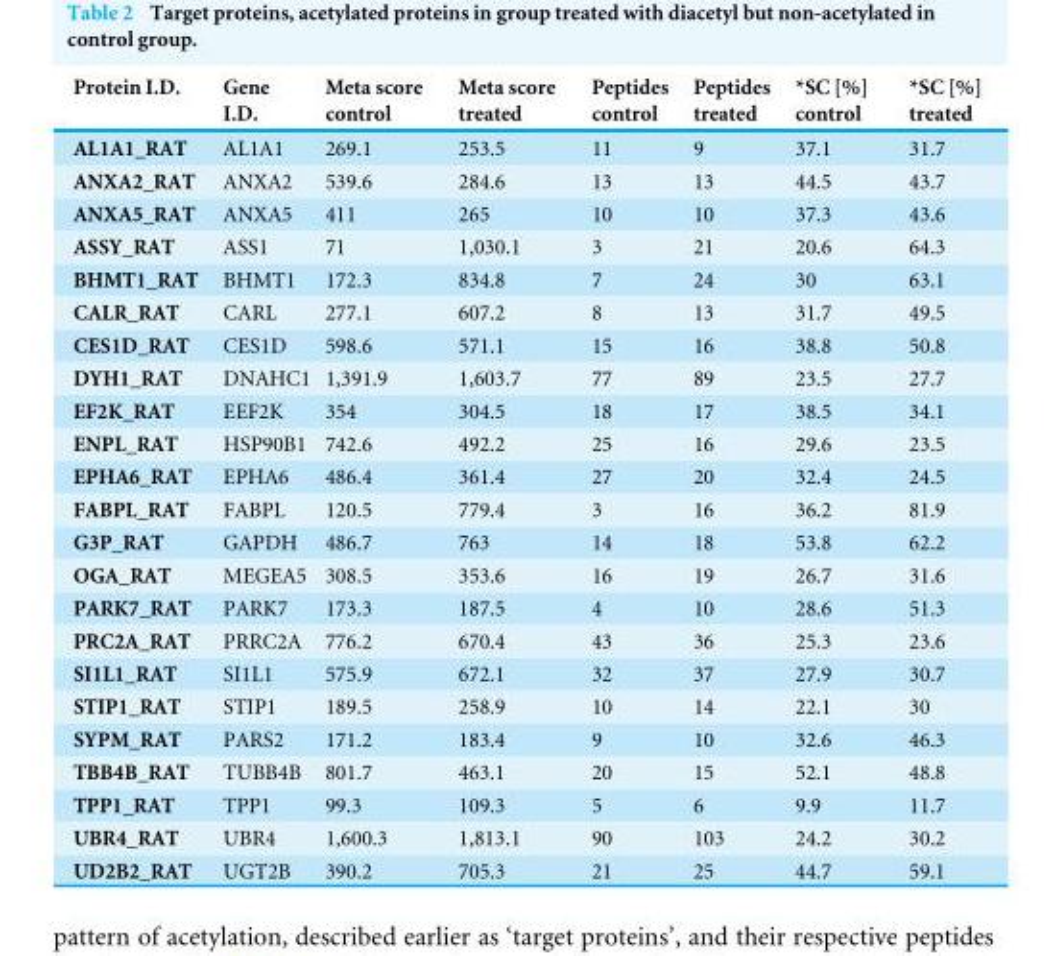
<table><thead><tr><td>Protein I.D.</td><td>Gene I.D.</td><td>Meta score control</td><td>Meta score treated</td><td>Peptides control</td><td>Peptides treated</td><td>*SC [%] control</td><td>*SC [%] treated</td></tr></thead><tbody><tr><td>AL1A1_RAT</td><td>AL1A1</td><td>269.1</td><td>253.5</td><td>11</td><td>9</td><td>37.1</td><td>31.7</td></tr><tr><td>ANXA2_RAT</td><td>ANXA2</td><td>539.6</td><td>284.6</td><td>13</td><td>13</td><td>44.5</td><td>43.7</td></tr><tr><td>ANXA5_RAT</td><td>ANXA5</td><td>411</td><td>265</td><td>10</td><td>10</td><td>37.3</td><td>43.6</td></tr><tr><td>ASSY_RAT</td><td>ASS1</td><td>71</td><td>1,030.1</td><td>3</td><td>21</td><td>20.6</td><td>64.3</td></tr><tr><td>BHMT1_RAT</td><td>BHMT1</td><td>172.3</td><td>834.8</td><td>7</td><td>24</td><td>30</td><td>63.1</td></tr><tr><td>CALR_RAT</td><td>CARL</td><td>277.1</td><td>607.2</td><td>8</td><td>13</td><td>31.7</td><td>49.5</td></tr><tr><td>CES1D_RAT</td><td>CES1D</td><td>598.6</td><td>571.1</td><td>15</td><td>16</td><td>38.8</td><td>50.8</td></tr><tr><td>DYH1_RAT</td><td>DNAHC1</td><td>1,391.9</td><td>1,603.7</td><td>77</td><td>89</td><td>23.5</td><td>27.7</td></tr><tr><td>EF2K_RAT</td><td>EEF2K</td><td>354</td><td>304.5</td><td>18</td><td>17</td><td>38.5</td><td>34.1</td></tr><tr><td>ENPL_RAT</td><td>HSP90B1</td><td>742.6</td><td>492.2</td><td>25</td><td>16</td><td>29.6</td><td>23.5</td></tr><tr><td>EPHA6_RAT</td><td>EPHA6</td><td>486.4</td><td>361.4</td><td>27</td><td>20</td><td>32.4</td><td>24.5</td></tr><tr><td>FABPL_RAT</td><td>FABPL</td><td>120.5</td><td>779.4</td><td>3</td><td>16</td><td>36.2</td><td>81.9</td></tr><tr><td>G3P_RAT</td><td>GAPDH</td><td>486.7</td><td>763</td><td>14</td><td>18</td><td>53.8</td><td>62.2</td></tr><tr><td>OGA_RAT</td><td>MEGEA5</td><td>308.5</td><td>353.6</td><td>16</td><td>19</td><td>26.7</td><td>31.6</td></tr><tr><td>PARK7_RAT</td><td>PARK7</td><td>173.3</td><td>187.5</td><td>4</td><td>10</td><td>28.6</td><td>51.3</td></tr><tr><td>PRC2A_RAT</td><td>PRRC2A</td><td>776.2</td><td>670.4</td><td>43</td><td>36</td><td>25.3</td><td>23.6</td></tr><tr><td>SI1L1_RAT</td><td>SI1L1</td><td>575.9</td><td>672.1</td><td>32</td><td>37</td><td>27.9</td><td>30.7</td></tr><tr><td>STIP1_RAT</td><td>STIP1</td><td>189.5</td><td>258.9</td><td>10</td><td>14</td><td>22.1</td><td>30</td></tr><tr><td>SYPM_RAT</td><td>PARS2</td><td>171.2</td><td>183.4</td><td>9</td><td>10</td><td>32.6</td><td>46.3</td></tr><tr><td>TBB4B_RAT</td><td>TUBB4B</td><td>801.7</td><td>463.1</td><td>20</td><td>15</td><td>52.1</td><td>48.8</td></tr><tr><td>TPP1_RAT</td><td>TPP1</td><td>99.3</td><td>109.3</td><td>5</td><td>6</td><td>9.9</td><td>11.7</td></tr><tr><td>UBR4_RAT</td><td>UBR4</td><td>1,600.3</td><td>1,813.1</td><td>90</td><td>103</td><td>24.2</td><td>30.2</td></tr><tr><td>UD2B2_RAT</td><td>UGT2B</td><td>390.2</td><td>705.3</td><td>21</td><td>25</td><td>44.7</td><td>59.1</td></tr></tbody></table>